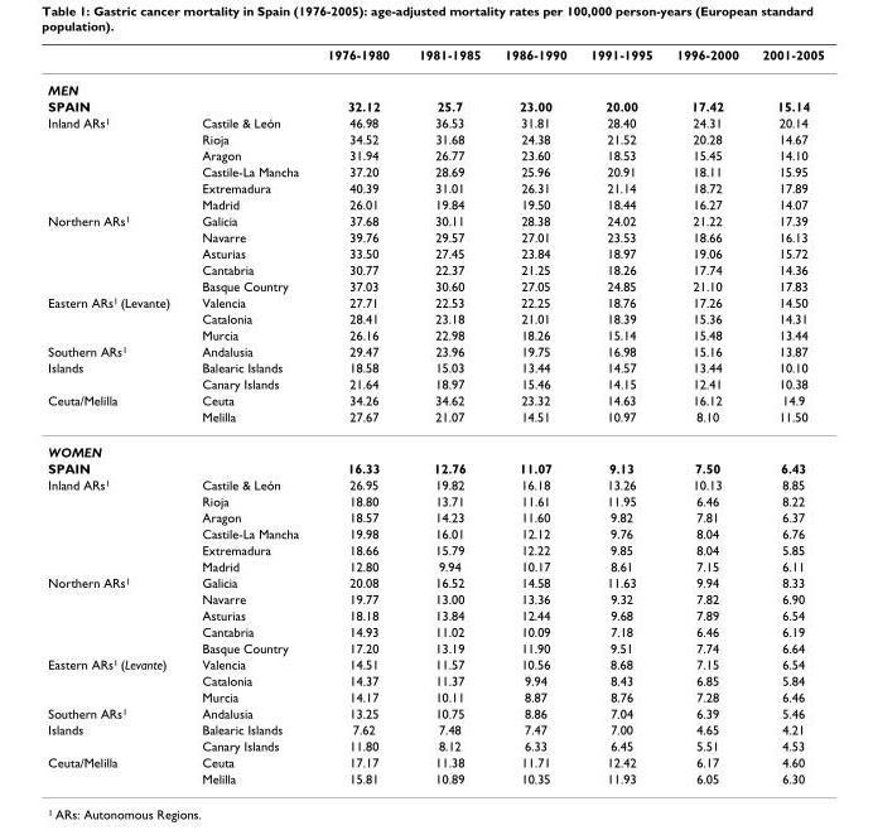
<table><thead><tr><td></td><td></td><td>1976-1980</td><td>1981-1985</td><td>1986-1990</td><td>1991-1995</td><td>1996-2000</td><td>2001-2005</td></tr></thead><tbody><tr><td colspan="8">MEN</td></tr><tr><td>SPAIN</td><td></td><td>32.12</td><td>25.7</td><td>23.00</td><td>20.00</td><td>17.42</td><td>15.14</td></tr><tr><td rowspan="6">Inland ARs<sup>1</sup></td><td>Castile &amp; León</td><td>46.98</td><td>36.53</td><td>31.81</td><td>28.40</td><td>24.31</td><td>20.14</td></tr><tr><td>Rioja</td><td>34.52</td><td>31.68</td><td>24.38</td><td>21.52</td><td>20.28</td><td>14.67</td></tr><tr><td>Aragon</td><td>31.94</td><td>26.77</td><td>23.60</td><td>18.53</td><td>15.45</td><td>14.10</td></tr><tr><td>Castile-La Mancha</td><td>37.20</td><td>28.69</td><td>25.96</td><td>20.91</td><td>18.11</td><td>15.95</td></tr><tr><td>Extremadura</td><td>40.39</td><td>31.01</td><td>26.31</td><td>21.14</td><td>18.72</td><td>17.89</td></tr><tr><td>Madrid</td><td>26.01</td><td>19.84</td><td>19.50</td><td>18.44</td><td>16.27</td><td>14.07</td></tr><tr><td rowspan="5">Northern ARs<sup>1</sup></td><td>Galicia</td><td>37.68</td><td>30.11</td><td>28.38</td><td>24.02</td><td>21.22</td><td>17.39</td></tr><tr><td>Navarre</td><td>39.76</td><td>29.57</td><td>27.01</td><td>23.53</td><td>18.66</td><td>16.13</td></tr><tr><td>Asturias</td><td>33.50</td><td>27.45</td><td>23.84</td><td>18.97</td><td>19.06</td><td>15.72</td></tr><tr><td>Cantabria</td><td>30.77</td><td>22.37</td><td>21.25</td><td>18.26</td><td>17.74</td><td>14.36</td></tr><tr><td>Basque Country</td><td>37.03</td><td>30.60</td><td>27.05</td><td>24.85</td><td>21.10</td><td>17.83</td></tr><tr><td rowspan="3">Eastern ARs<sup>1</sup> (Levante)</td><td>Valencia</td><td>27.71</td><td>22.53</td><td>22.25</td><td>18.76</td><td>17.26</td><td>14.50</td></tr><tr><td>Catalonia</td><td>28.41</td><td>23.18</td><td>21.01</td><td>18.39</td><td>15.36</td><td>14.31</td></tr><tr><td>Murcia</td><td>26.16</td><td>22.98</td><td>18.26</td><td>15.14</td><td>15.48</td><td>13.44</td></tr><tr><td>Southern ARs<sup>1</sup></td><td>Andalusia</td><td>29.47</td><td>23.96</td><td>19.75</td><td>16.98</td><td>15.16</td><td>13.87</td></tr><tr><td rowspan="2">Islands</td><td>Balearic Islands</td><td>18.58</td><td>15.03</td><td>13.44</td><td>14.57</td><td>13.44</td><td>10.10</td></tr><tr><td>Canary Islands</td><td>21.64</td><td>18.97</td><td>15.46</td><td>14.15</td><td>12.41</td><td>10.38</td></tr><tr><td rowspan="2">Ceuta/Melilla</td><td>Ceuta</td><td>34.26</td><td>34.62</td><td>23.32</td><td>14.63</td><td>16.12</td><td>14.9</td></tr><tr><td>Melilla</td><td>27.67</td><td>21.07</td><td>14.51</td><td>10.97</td><td>8.10</td><td>11.50</td></tr><tr><td colspan="8">WOMEN</td></tr><tr><td>SPAIN</td><td></td><td>16.33</td><td>12.76</td><td>11.07</td><td>9.13</td><td>7.50</td><td>6.43</td></tr><tr><td rowspan="6">Inland ARs<sup>1</sup></td><td>Castile &amp; León</td><td>26.95</td><td>19.82</td><td>16.18</td><td>13.26</td><td>10.13</td><td>8.85</td></tr><tr><td>Rioja</td><td>18.80</td><td>13.71</td><td>11.61</td><td>11.95</td><td>6.46</td><td>8.22</td></tr><tr><td>Aragon</td><td>18.57</td><td>14.23</td><td>11.60</td><td>9.82</td><td>7.81</td><td>6.37</td></tr><tr><td>Castile-La Mancha</td><td>19.98</td><td>16.01</td><td>12.12</td><td>9.76</td><td>8.04</td><td>6.76</td></tr><tr><td>Extremadura</td><td>18.66</td><td>15.79</td><td>12.22</td><td>9.85</td><td>8.04</td><td>5.85</td></tr><tr><td>Madrid</td><td>12.80</td><td>9.94</td><td>10.17</td><td>8.61</td><td>7.15</td><td>6.11</td></tr><tr><td rowspan="5">Northern ARs<sup>1</sup></td><td>Galicia</td><td>20.08</td><td>16.52</td><td>14.58</td><td>11.63</td><td>9.94</td><td>8.33</td></tr><tr><td>Navarre</td><td>19.77</td><td>13.00</td><td>13.36</td><td>9.32</td><td>7.82</td><td>6.90</td></tr><tr><td>Asturias</td><td>18.18</td><td>13.84</td><td>12.44</td><td>9.68</td><td>7.89</td><td>6.54</td></tr><tr><td>Cantabria</td><td>14.93</td><td>11.02</td><td>10.09</td><td>7.18</td><td>6.46</td><td>6.19</td></tr><tr><td>Basque Country</td><td>17.20</td><td>13.19</td><td>11.90</td><td>9.51</td><td>7.74</td><td>6.64</td></tr><tr><td rowspan="3">Eastern ARs<sup>1</sup> (Levante)</td><td>Valencia</td><td>14.51</td><td>11.57</td><td>10.56</td><td>8.68</td><td>7.15</td><td>6.54</td></tr><tr><td>Catalonia</td><td>14.37</td><td>11.37</td><td>9.94</td><td>8.43</td><td>6.85</td><td>5.84</td></tr><tr><td>Murcia</td><td>14.17</td><td>10.11</td><td>8.87</td><td>8.76</td><td>7.28</td><td>6.46</td></tr><tr><td>Southern ARs<sup>1</sup></td><td>Andalusia</td><td>13.25</td><td>10.75</td><td>8.86</td><td>7.04</td><td>6.39</td><td>5.46</td></tr><tr><td rowspan="2">Islands</td><td>Balearic Islands</td><td>7.62</td><td>7.48</td><td>7.47</td><td>7.00</td><td>4.65</td><td>4.21</td></tr><tr><td>Canary Islands</td><td>11.80</td><td>8.12</td><td>6.33</td><td>6.45</td><td>5.51</td><td>4.53</td></tr><tr><td rowspan="2">Ceuta/Melilla</td><td>Ceuta</td><td>17.17</td><td>11.38</td><td>11.71</td><td>12.42</td><td>6.17</td><td>4.60</td></tr><tr><td>Melilla</td><td>15.81</td><td>10.89</td><td>10.35</td><td>11.93</td><td>6.05</td><td>6.30</td></tr></tbody></table>